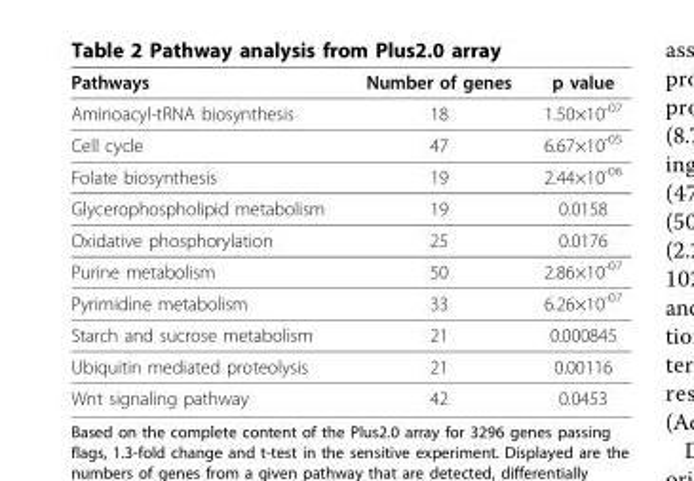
<table><thead><tr><td>Pathways</td><td>Number of genes</td><td>p value</td></tr></thead><tbody><tr><td>Aminoacyl-tRNA biosynthesis</td><td>18</td><td>1.50×10<sup>-07</sup></td></tr><tr><td>Cell cycle</td><td>47</td><td>6.67×10<sup>-05</sup></td></tr><tr><td>Folate biosynthesis</td><td>19</td><td>2.44×10<sup>-06</sup></td></tr><tr><td>Glycerophospholipid metabolism</td><td>19</td><td>0.0158</td></tr><tr><td>Oxidative phosphorylation</td><td>25</td><td>0.0176</td></tr><tr><td>Purine metabolism</td><td>50</td><td>2.86×10<sup>-07</sup></td></tr><tr><td>Pyrimidine metabolism</td><td>33</td><td>6.26×10<sup>-07</sup></td></tr><tr><td>Starch and sucrose metabolism</td><td>21</td><td>0.000845</td></tr><tr><td>Ubiquitin mediated proteolysis</td><td>21</td><td>0.00116</td></tr><tr><td>Wnt signaling pathway</td><td>42</td><td>0.0453</td></tr></tbody></table>